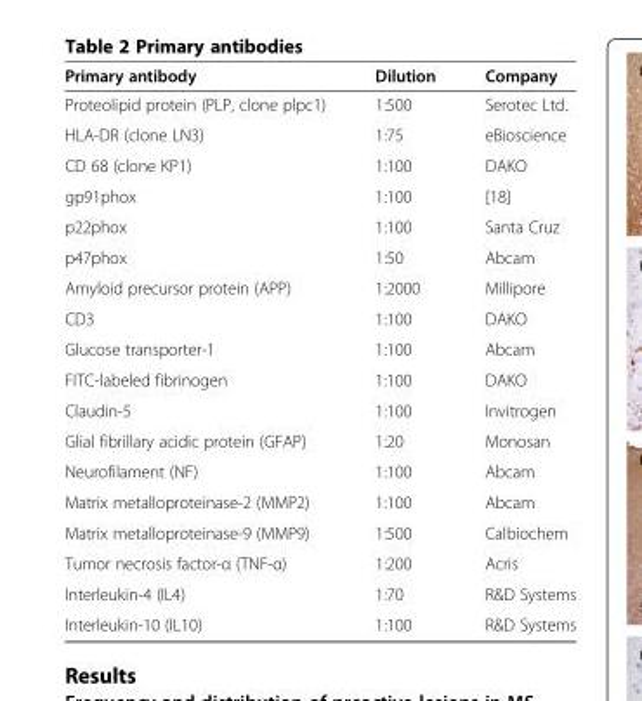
<table><thead><tr><td>Primary antibody</td><td>Dilution</td><td>Company</td></tr></thead><tbody><tr><td>Proteolipid protein (PLP, clone plpc1)</td><td>1:500</td><td>Serotec Ltd.</td></tr><tr><td>HLA-DR (clone LN3)</td><td>1:75</td><td>eBioscience</td></tr><tr><td>CD 68 (clone KP1)</td><td>1:100</td><td>DAKO</td></tr><tr><td>gp91phox</td><td>1:100</td><td>[18]</td></tr><tr><td>p22phox</td><td>1:100</td><td>Santa Cruz</td></tr><tr><td>p47phox</td><td>1:50</td><td>Abcam</td></tr><tr><td>Amyloid precursor protein (APP)</td><td>1:2000</td><td>Millipore</td></tr><tr><td>CD3</td><td>1:100</td><td>DAKO</td></tr><tr><td>Glucose transporter-1</td><td>1:100</td><td>Abcam</td></tr><tr><td>FITC-labeled fibrinogen</td><td>1:100</td><td>DAKO</td></tr><tr><td>Claudin-5</td><td>1:100</td><td>Invitrogen</td></tr><tr><td>Glial fibrillary acidic protein (GFAP)</td><td>1:20</td><td>Monosan</td></tr><tr><td>Neurofilament (NF)</td><td>1:100</td><td>Abcam</td></tr><tr><td>Matrix metalloproteinase-2 (MMP2)</td><td>1:100</td><td>Abcam</td></tr><tr><td>Matrix metalloproteinase-9 (MMP9)</td><td>1:500</td><td>Calbiochem</td></tr><tr><td>Tumor necrosis factor-α (TNF-α)</td><td>1:200</td><td>Acris</td></tr><tr><td>Interleukin-4 (IL4)</td><td>1:70</td><td>R&amp;D Systems</td></tr><tr><td>Interleukin-10 (IL10)</td><td>1:100</td><td>R&amp;D Systems</td></tr></tbody></table>